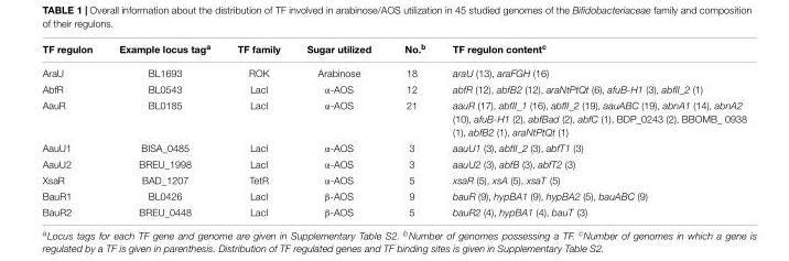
<table><thead><tr><td>TF regulon</td><td>Example locus tag<sup>a</sup></td><td>TF family</td><td>Sugar utilized</td><td>No.<sup>b</sup></td><td>TF regulon content<sup>c</sup></td></tr></thead><tbody><tr><td>AraU</td><td>BL1693</td><td>ROK</td><td>Arabinose</td><td>18</td><td>araU (13), araFGH (16)</td></tr><tr><td>AbfR</td><td>BL0543</td><td>LacI</td><td>α-AOS</td><td>12</td><td>abfR (12), abfB2 (12), araNtPtQt (6), afuB-H1 (3), abfII_2 (1)</td></tr><tr><td>AauR</td><td>BL0185</td><td>LacI</td><td>α-AOS</td><td>21</td><td>aauR (17), abfII_1 (16), abfII_2 (19), aauABC (19), abnA1 (14), abnA2 (10), afuB-H1 (2), abfBad (2), abfC (1), BDP_0243 (2), BBOMB_ 0938 (1), abfB2 (1), araNtPtQt (1)</td></tr><tr><td>AauU1</td><td>BISA_0485</td><td>LacI</td><td>α-AOS</td><td>3</td><td>aauU1 (3), abfII_2 (3), abfT1 (3)</td></tr><tr><td>AauU2</td><td>BREU_1998</td><td>LacI</td><td>α-AOS</td><td>3</td><td>aauU2 (3), abfB (3), abfT2 (3)</td></tr><tr><td>XsaR</td><td>BAD_1207</td><td>TetR</td><td>α-AOS</td><td>5</td><td>xsaR (5), xsA (5), xsaT (5)</td></tr><tr><td>BauR1</td><td>BL0426</td><td>LacI</td><td>β-AOS</td><td>9</td><td>bauR (9), hypBA1 (9), hypBA2 (5), bauABC (9)</td></tr><tr><td>BauR2</td><td>BREU_0448</td><td>LacI</td><td>β-AOS</td><td>5</td><td>bauR2 (4), hypBA1 (4), bauT (3)</td></tr></tbody></table>